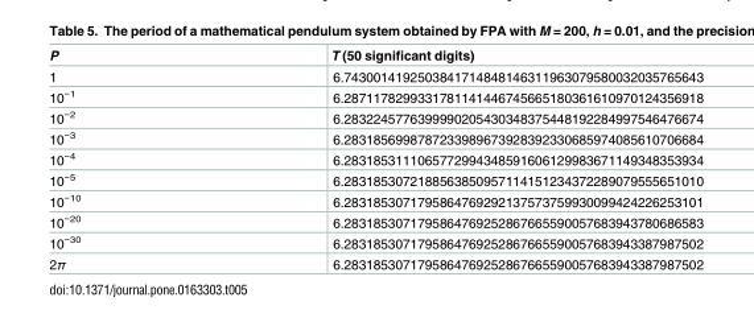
<table><thead><tr><td>P</td><td>T (50 significant digits)</td></tr></thead><tbody><tr><td>1</td><td>6.7430014192503841714848146311963079580032035765643</td></tr><tr><td>10<sup>−1</sup></td><td>6.2871178299331781141446745665180361610970124356918</td></tr><tr><td>10<sup>−2</sup></td><td>6.2832245776399990205430348375448192284997546476674</td></tr><tr><td>10<sup>−3</sup></td><td>6.2831856998787233989673928392330685974085610706684</td></tr><tr><td>10<sup>−4</sup></td><td>6.2831853111065772994348591606129983671149348353934</td></tr><tr><td>10<sup>−5</sup></td><td>6.2831853072188563850957114151234372289079555651010</td></tr><tr><td>10<sup>−10</sup></td><td>6.2831853071795864769292137573759930099424226253101</td></tr><tr><td>10<sup>−20</sup></td><td>6.2831853071795864769252867665590057683943780686583</td></tr><tr><td>10<sup>−30</sup></td><td>6.2831853071795864769252867665590057683943387987502</td></tr><tr><td>2π</td><td>6.2831853071795864769252867665590057683943387987502</td></tr></tbody></table>